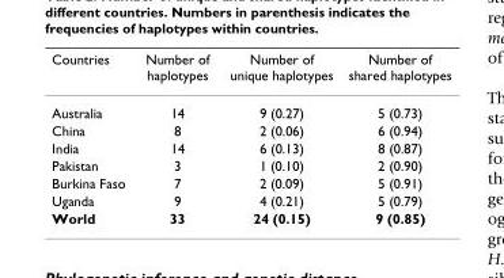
<table><thead><tr><td>Countries</td><td>Number of haplotypes</td><td>Number of unique haplotypes</td><td>Number of shared haplotypes</td></tr></thead><tbody><tr><td>Australia</td><td>14</td><td>9 (0.27)</td><td>5 (0.73)</td></tr><tr><td>China</td><td>8</td><td>2 (0.06)</td><td>6 (0.94)</td></tr><tr><td>India</td><td>14</td><td>6 (0.13)</td><td>8 (0.87)</td></tr><tr><td>Pakistan</td><td>3</td><td>1 (0.10)</td><td>2 (0.90)</td></tr><tr><td>Burkina Faso</td><td>7</td><td>2 (0.09)</td><td>5 (0.91)</td></tr><tr><td>Uganda</td><td>9</td><td>4 (0.21)</td><td>5 (0.79)</td></tr><tr><td>World</td><td>33</td><td>24 (0.15)</td><td>9 (0.85)</td></tr></tbody></table>